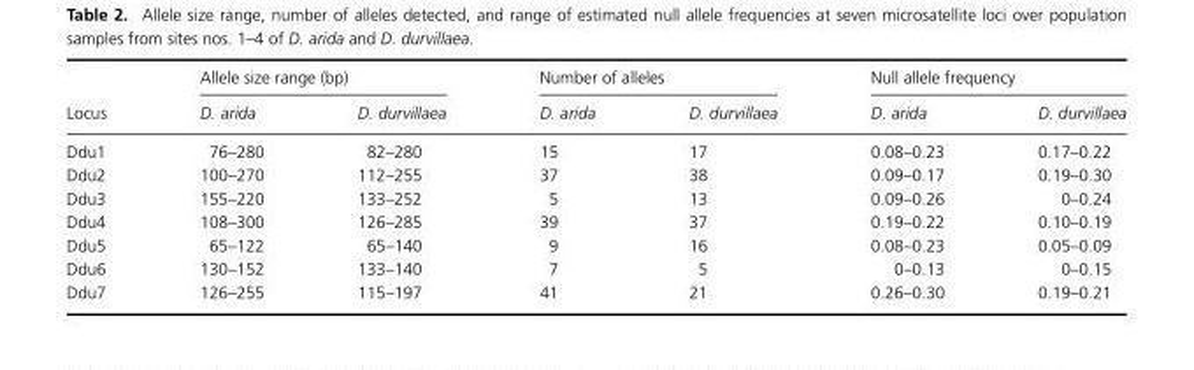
<table><thead><tr><td rowspan="2">Locus</td><td colspan="2">Allele size range (bp)</td><td colspan="2">Number of alleles</td><td colspan="2">Null allele frequency</td></tr><tr><td>D. arida</td><td>D. durvillaea</td><td>D. arida</td><td>D. durvillaea</td><td>D. arida</td><td>D. durvillaea</td></tr></thead><tbody><tr><td>Ddu1</td><td>76–280</td><td>82–280</td><td>15</td><td>17</td><td>0.08–0.23</td><td>0.17–0.22</td></tr><tr><td>Ddu2</td><td>100–270</td><td>112–255</td><td>37</td><td>38</td><td>0.09–0.17</td><td>0.19–0.30</td></tr><tr><td>Ddu3</td><td>155–220</td><td>133–252</td><td>5</td><td>13</td><td>0.09–0.26</td><td>0–0.24</td></tr><tr><td>Ddu4</td><td>108–300</td><td>126–285</td><td>39</td><td>37</td><td>0.19–0.22</td><td>0.10–0.19</td></tr><tr><td>Ddu5</td><td>65–122</td><td>65–140</td><td>9</td><td>16</td><td>0.08–0.23</td><td>0.05–0.09</td></tr><tr><td>Ddu6</td><td>130–152</td><td>133–140</td><td>7</td><td>5</td><td>0–0.13</td><td>0–0.15</td></tr><tr><td>Ddu7</td><td>126–255</td><td>115–197</td><td>41</td><td>21</td><td>0.26–0.30</td><td>0.19–0.21</td></tr></tbody></table>